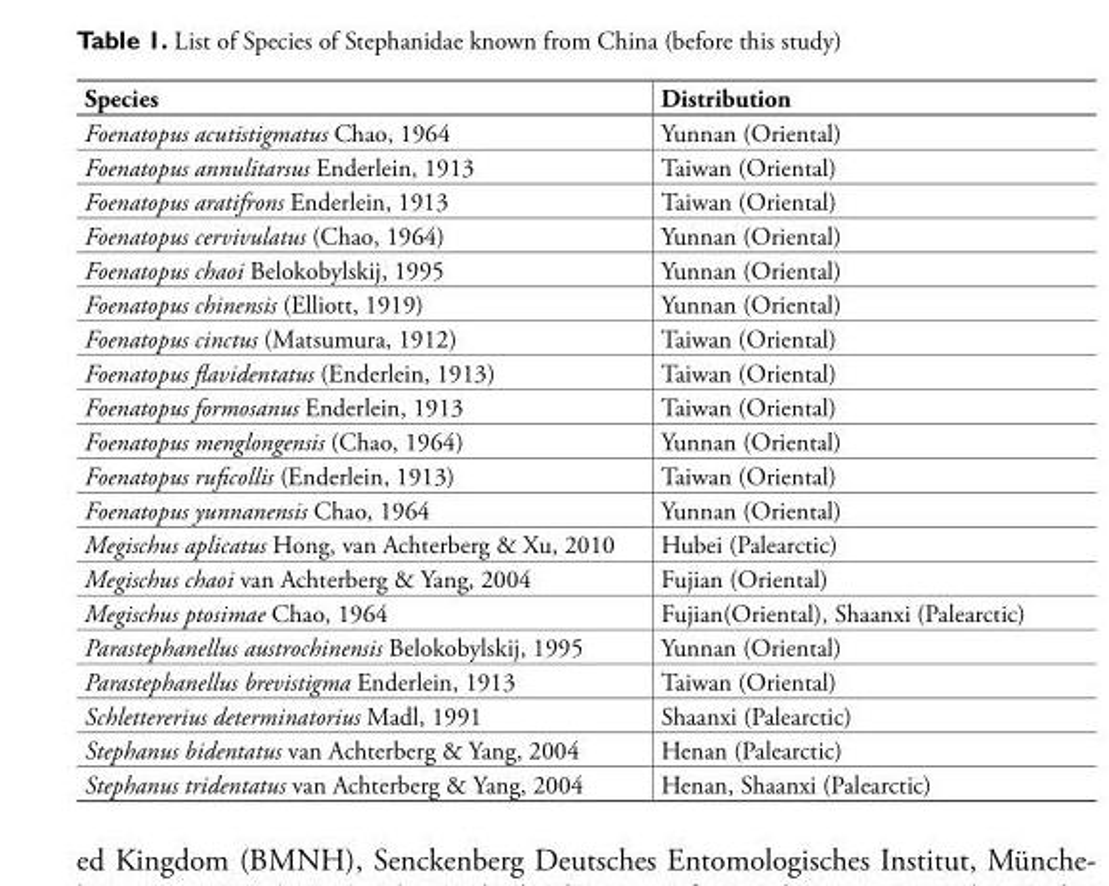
<table><thead><tr><td>Species</td><td>Distribution</td></tr></thead><tbody><tr><td>Foenatopus acutistigmatus Chao, 1964</td><td>Yunnan (Oriental)</td></tr><tr><td>Foenatopus annulitarsus Enderlein, 1913</td><td>Taiwan (Oriental)</td></tr><tr><td>Foenatopus aratifrons Enderlein, 1913</td><td>Taiwan (Oriental)</td></tr><tr><td>Foenatopus cervivulatus (Chao, 1964)</td><td>Yunnan (Oriental)</td></tr><tr><td>Foenatopus chaoi Belokobylskij, 1995</td><td>Yunnan (Oriental)</td></tr><tr><td>Foenatopus chinensis (Elliott, 1919)</td><td>Yunnan (Oriental)</td></tr><tr><td>Foenatopus cinctus (Matsumura, 1912)</td><td>Taiwan (Oriental)</td></tr><tr><td>Foenatopus flavidentatus (Enderlein, 1913)</td><td>Taiwan (Oriental)</td></tr><tr><td>Foenatopus formosanus Enderlein, 1913</td><td>Taiwan (Oriental)</td></tr><tr><td>Foenatopus menglongensis (Chao, 1964)</td><td>Yunnan (Oriental)</td></tr><tr><td>Foenatopus ruficollis (Enderlein, 1913)</td><td>Taiwan (Oriental)</td></tr><tr><td>Foenatopus yunnanensis Chao, 1964</td><td>Yunnan (Oriental)</td></tr><tr><td>Megischus aplicatus Hong, van Achterberg &amp; Xu, 2010</td><td>Hubei (Palearctic)</td></tr><tr><td>Megischus chaoi van Achterberg &amp; Yang, 2004</td><td>Fujian (Oriental)</td></tr><tr><td>Megischus ptosimae Chao, 1964</td><td>Fujian(Oriental), Shaanxi (Palearctic)</td></tr><tr><td>Parastephanellus austrochinensis Belokobylskij, 1995</td><td>Yunnan (Oriental)</td></tr><tr><td>Parastephanellus brevistigma Enderlein, 1913</td><td>Taiwan (Oriental)</td></tr><tr><td>Schlettererius determinatorius Madl, 1991</td><td>Shaanxi (Palearctic)</td></tr><tr><td>Stephanus bidentatus van Achterberg &amp; Yang, 2004</td><td>Henan (Palearctic)</td></tr><tr><td>Stephanus tridentatus van Achterberg &amp; Yang, 2004</td><td>Henan, Shaanxi (Palearctic)</td></tr></tbody></table>